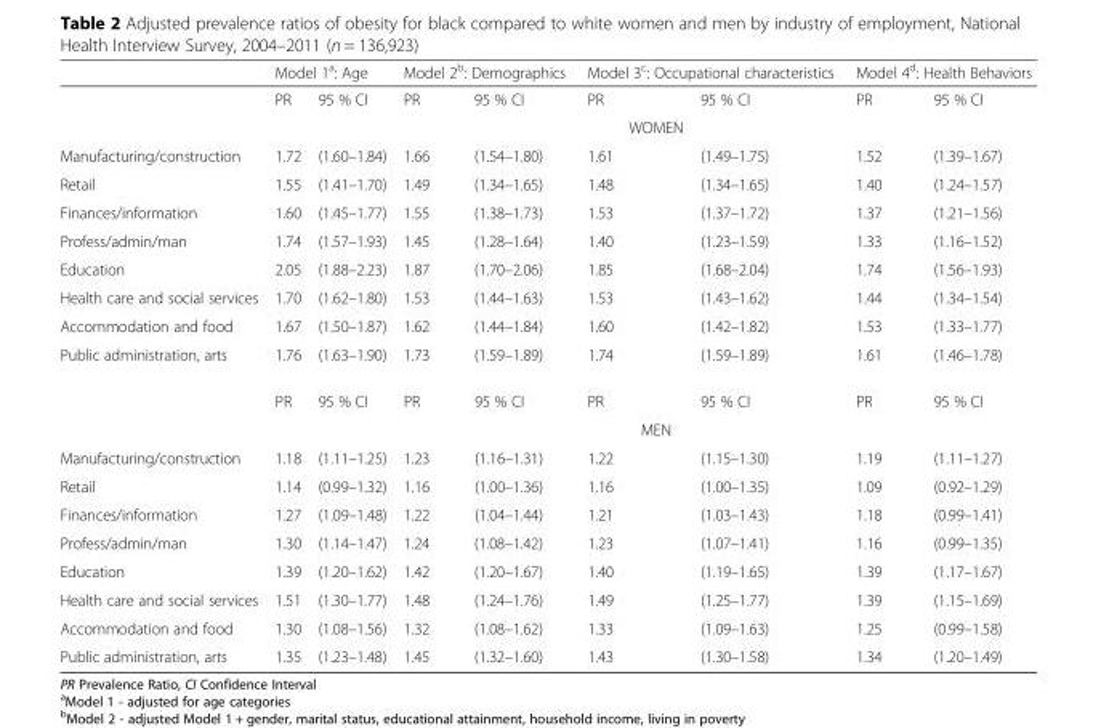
<table><thead><tr><td rowspan="2"></td><td colspan="2">Model 1<sup>a</sup>: Age</td><td colspan="2">Model 2<sup>b</sup>: Demographics</td><td colspan="2">Model 3<sup>c</sup>: Occupational characteristics</td><td colspan="2">Model 4<sup>d</sup>: Health Behaviors</td></tr><tr><td>PR</td><td>95 % CI</td><td>PR</td><td>95 % CI</td><td>PR</td><td>95 % CI</td><td>PR</td><td>95 % CI</td></tr></thead><tbody><tr><td></td><td colspan="8">WOMEN</td></tr><tr><td>Manufacturing/construction</td><td>1.72</td><td>(1.60–1.84)</td><td>1.66</td><td>(1.54–1.80)</td><td>1.61</td><td>(1.49–1.75)</td><td>1.52</td><td>(1.39–1.67)</td></tr><tr><td>Retail</td><td>1.55</td><td>(1.41–1.70)</td><td>1.49</td><td>(1.34–1.65)</td><td>1.48</td><td>(1.34–1.65)</td><td>1.40</td><td>(1.24–1.57)</td></tr><tr><td>Finances/information</td><td>1.60</td><td>(1.45–1.77)</td><td>1.55</td><td>(1.38–1.73)</td><td>1.53</td><td>(1.37–1.72)</td><td>1.37</td><td>(1.21–1.56)</td></tr><tr><td>Profess/admin/man</td><td>1.74</td><td>(1.57–1.93)</td><td>1.45</td><td>(1.28–1.64)</td><td>1.40</td><td>(1.23–1.59)</td><td>1.33</td><td>(1.16–1.52)</td></tr><tr><td>Education</td><td>2.05</td><td>(1.88–2.23)</td><td>1.87</td><td>(1.70–2.06)</td><td>1.85</td><td>(1.68–2.04)</td><td>1.74</td><td>(1.56–1.93)</td></tr><tr><td>Health care and social services</td><td>1.70</td><td>(1.62–1.80)</td><td>1.53</td><td>(1.44–1.63)</td><td>1.53</td><td>(1.43–1.62)</td><td>1.44</td><td>(1.34–1.54)</td></tr><tr><td>Accommodation and food</td><td>1.67</td><td>(1.50–1.87)</td><td>1.62</td><td>(1.44–1.84)</td><td>1.60</td><td>(1.42–1.82)</td><td>1.53</td><td>(1.33–1.77)</td></tr><tr><td rowspan="3">Public administration, arts</td><td>1.76</td><td>(1.63–1.90)</td><td>1.73</td><td>(1.59–1.89)</td><td>1.74</td><td>(1.59–1.89)</td><td>1.61</td><td>(1.46–1.78)</td></tr><tr><td>PR</td><td>95 % CI</td><td>PR</td><td>95 % CI</td><td>PR</td><td>95 % CI</td><td>PR</td><td>95 % CI</td></tr><tr><td colspan="8">MEN</td></tr><tr><td>Manufacturing/construction</td><td>1.18</td><td>(1.11–1.25)</td><td>1.23</td><td>(1.16–1.31)</td><td>1.22</td><td>(1.15–1.30)</td><td>1.19</td><td>(1.11–1.27)</td></tr><tr><td>Retail</td><td>1.14</td><td>(0.99–1.32)</td><td>1.16</td><td>(1.00–1.36)</td><td>1.16</td><td>(1.00–1.35)</td><td>1.09</td><td>(0.92–1.29)</td></tr><tr><td>Finances/information</td><td>1.27</td><td>(1.09–1.48)</td><td>1.22</td><td>(1.04–1.44)</td><td>1.21</td><td>(1.03–1.43)</td><td>1.18</td><td>(0.99–1.41)</td></tr><tr><td>Profess/admin/man</td><td>1.30</td><td>(1.14–1.47)</td><td>1.24</td><td>(1.08–1.42)</td><td>1.23</td><td>(1.07–1.41)</td><td>1.16</td><td>(0.99–1.35)</td></tr><tr><td>Education</td><td>1.39</td><td>(1.20–1.62)</td><td>1.42</td><td>(1.20–1.67)</td><td>1.40</td><td>(1.19–1.65)</td><td>1.39</td><td>(1.17–1.67)</td></tr><tr><td>Health care and social services</td><td>1.51</td><td>(1.30–1.77)</td><td>1.48</td><td>(1.24–1.76)</td><td>1.49</td><td>(1.25–1.77)</td><td>1.39</td><td>(1.15–1.69)</td></tr><tr><td>Accommodation and food</td><td>1.30</td><td>(1.08–1.56)</td><td>1.32</td><td>(1.08–1.62)</td><td>1.33</td><td>(1.09–1.63)</td><td>1.25</td><td>(0.99–1.58)</td></tr><tr><td>Public administration, arts</td><td>1.35</td><td>(1.23–1.48)</td><td>1.45</td><td>(1.32–1.60)</td><td>1.43</td><td>(1.30–1.58)</td><td>1.34</td><td>(1.20–1.49)</td></tr></tbody></table>